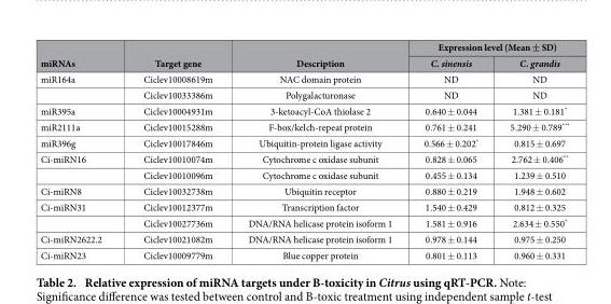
<table><thead><tr><td rowspan="2">miRNAs</td><td rowspan="2">Target gene</td><td rowspan="2">Description</td><td colspan="2">Expression level (Mean ± SD)</td></tr><tr><td>C. sinensis</td><td>C. grandis</td></tr></thead><tbody><tr><td rowspan="2">miR164a</td><td>Ciclev10008619m</td><td>NAC domain protein</td><td>ND</td><td>ND</td></tr><tr><td>Ciclev10033386m</td><td>Polygalacturonase</td><td>ND</td><td>ND</td></tr><tr><td>miR395a</td><td>Ciclev10004931m</td><td>3-ketoacyl-CoA thiolase 2</td><td>0.640 ± 0.044</td><td>1.381 ± 0.181*</td></tr><tr><td>miR2111a</td><td>Ciclev10015288m</td><td>F-box/kelch-repeat protein</td><td>0.761 ± 0.241</td><td>5.290 ± 0.789***</td></tr><tr><td>miR396g</td><td>Ciclev10017846m</td><td>Ubiquitin-protein ligase activity</td><td>0.566 ± 0.202*</td><td>0.815 ± 0.697</td></tr><tr><td rowspan="2">Ci-miRN16</td><td>Ciclev10010074m</td><td>Cytochrome c oxidase subunit</td><td>0.828 ± 0.065</td><td>2.762 ± 0.406**</td></tr><tr><td>Ciclev10010096m</td><td>Cytochrome c oxidase subunit</td><td>0.455 ± 0.134</td><td>1.239 ± 0.510</td></tr><tr><td>Ci-miRN8</td><td>Ciclev10032738m</td><td>Ubiquitin receptor</td><td>0.880 ± 0.219</td><td>1.948 ± 0.602</td></tr><tr><td rowspan="2">Ci-miRN31</td><td>Ciclev10012377m</td><td>Transcription factor</td><td>1.540 ± 0.429</td><td>0.812 ± 0.325</td></tr><tr><td>Ciclev10027736m</td><td>DNA/RNA helicase protein isoform 1</td><td>1.581 ± 0.916</td><td>2.634 ± 0.550*</td></tr><tr><td>Ci-miRN2622.2</td><td>Ciclev10021082m</td><td>DNA/RNA helicase protein isoform 1</td><td>0.978 ± 0.144</td><td>0.975 ± 0.250</td></tr><tr><td>Ci-miRN23</td><td>Ciclev10009779m</td><td>Blue copper protein</td><td>0.801 ± 0.113</td><td>0.960 ± 0.331</td></tr></tbody></table>